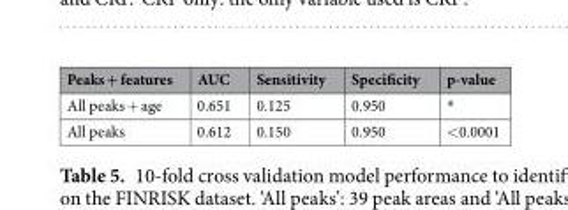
<table><thead><tr><td>Peaks + features</td><td>AUC</td><td>Sensitivity</td><td>Specificity</td><td>p-value</td></tr></thead><tbody><tr><td>All peaks + age</td><td>0.651</td><td>0.125</td><td>0.950</td><td>*</td></tr><tr><td>All peaks</td><td>0.612</td><td>0.150</td><td>0.950</td><td>&lt;0.0001</td></tr></tbody></table>